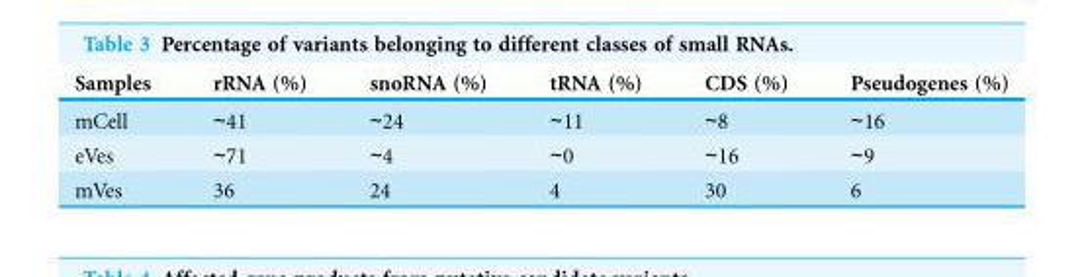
<table><thead><tr><td>Samples</td><td>rRNA (%)</td><td>snoRNA (%)</td><td>tRNA (%)</td><td>CDS (%)</td><td>Pseudogenes (%)</td></tr></thead><tbody><tr><td>mCell</td><td>∼41</td><td>∼24</td><td>∼11</td><td>∼8</td><td>∼16</td></tr><tr><td>eVes</td><td>∼71</td><td>∼4</td><td>∼0</td><td>∼16</td><td>∼9</td></tr><tr><td>mVes</td><td>36</td><td>24</td><td>4</td><td>30</td><td>6</td></tr></tbody></table>